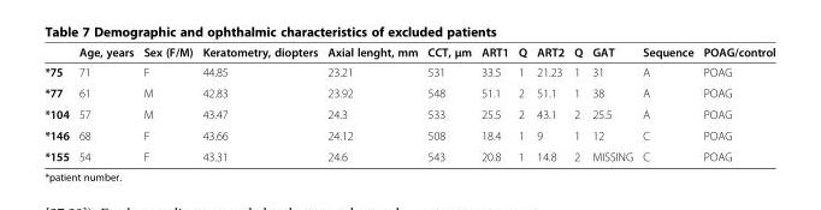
<table><thead><tr><td></td><td>Age, years</td><td>Sex (F/M)</td><td>Keratometry, diopters</td><td>Axial lenght, mm</td><td>CCT, μm</td><td>ART1</td><td>Q</td><td>ART2</td><td>Q</td><td>GAT</td><td>Sequence</td><td>POAG/control</td></tr></thead><tbody><tr><td>*75</td><td>71</td><td>F</td><td>44.85</td><td>23.21</td><td>531</td><td>33.5</td><td>1</td><td>21.23</td><td>1</td><td>31</td><td>A</td><td>POAG</td></tr><tr><td>*77</td><td>61</td><td>M</td><td>42.83</td><td>23.92</td><td>548</td><td>51.1</td><td>2</td><td>51.1</td><td>1</td><td>38</td><td>A</td><td>POAG</td></tr><tr><td>*104</td><td>57</td><td>M</td><td>43.47</td><td>24.3</td><td>533</td><td>25.5</td><td>2</td><td>43.1</td><td>2</td><td>25.5</td><td>A</td><td>POAG</td></tr><tr><td>*146</td><td>68</td><td>F</td><td>43.66</td><td>24.12</td><td>508</td><td>18.4</td><td>1</td><td>9</td><td>1</td><td>12</td><td>C</td><td>POAG</td></tr><tr><td>*155</td><td>54</td><td>F</td><td>43.31</td><td>24.6</td><td>543</td><td>20.8</td><td>1</td><td>14.8</td><td>2</td><td>MISSING</td><td>C</td><td>POAG</td></tr></tbody></table>